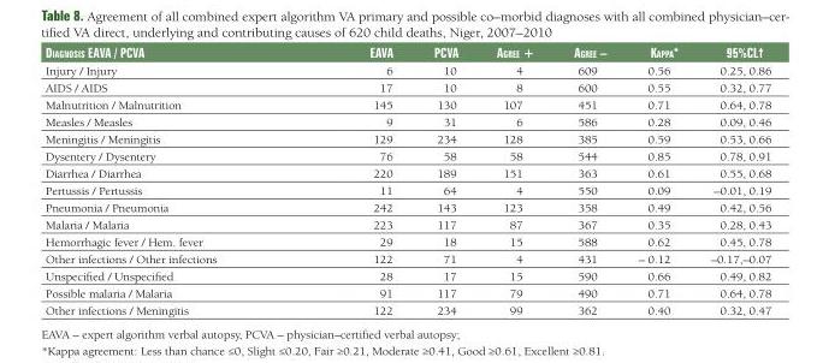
<table><thead><tr><td>diAgNoSiS eAVA / pcVA</td><td>eAVA</td><td>pcVA</td><td>Agree +</td><td>Agree –</td><td>KAppA*</td><td>95%cl†</td></tr></thead><tbody><tr><td>Injury / Injury</td><td>6</td><td>10</td><td>4</td><td>609</td><td>0.56</td><td>0.25, 0.86</td></tr><tr><td>AIDS / AIDS</td><td>17</td><td>10</td><td>8</td><td>600</td><td>0.55</td><td>0.32, 0.77</td></tr><tr><td>Malnutrition / Malnutrition</td><td>145</td><td>130</td><td>107</td><td>451</td><td>0.71</td><td>0.64, 0.78</td></tr><tr><td>Measles / Measles</td><td>9</td><td>31</td><td>6</td><td>586</td><td>0.28</td><td>0.09, 0.46</td></tr><tr><td>Meningitis / Meningitis</td><td>129</td><td>234</td><td>128</td><td>385</td><td>0.59</td><td>0.53, 0.66</td></tr><tr><td>Dysentery / Dysentery</td><td>76</td><td>58</td><td>58</td><td>544</td><td>0.85</td><td>0.78, 0.91</td></tr><tr><td>Diarrhea / Diarrhea</td><td>220</td><td>189</td><td>151</td><td>363</td><td>0.61</td><td>0.55, 0.68</td></tr><tr><td>Pertussis / Pertussis</td><td>11</td><td>64</td><td>4</td><td>550</td><td>0.09</td><td>–0.01, 0.19</td></tr><tr><td>Pneumonia / Pneumonia</td><td>242</td><td>143</td><td>123</td><td>358</td><td>0.49</td><td>0.42, 0.56</td></tr><tr><td>Malaria / Malaria</td><td>223</td><td>117</td><td>87</td><td>367</td><td>0.35</td><td>0.28, 0.43</td></tr><tr><td>Hemorrhagic fever / Hem. fever</td><td>29</td><td>18</td><td>15</td><td>588</td><td>0.62</td><td>0.45, 0.78</td></tr><tr><td>Other infections / Other infections</td><td>122</td><td>71</td><td>4</td><td>431</td><td>– 0.12</td><td>–0.17,–0.07</td></tr><tr><td>Unspecified / Unspecified</td><td>28</td><td>17</td><td>15</td><td>590</td><td>0.66</td><td>0.49, 0.82</td></tr><tr><td>Possible malaria / Malaria</td><td>91</td><td>117</td><td>79</td><td>490</td><td>0.71</td><td>0.64, 0.78</td></tr><tr><td>Other infections / Meningitis</td><td>122</td><td>234</td><td>99</td><td>362</td><td>0.40</td><td>0.32, 0.47</td></tr></tbody></table>